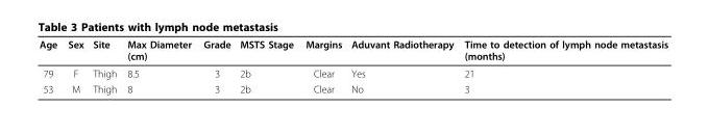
<table><thead><tr><td>Age</td><td>Sex</td><td>Site</td><td>Max Diameter (cm)</td><td>Grade</td><td>MSTS Stage</td><td>Margins</td><td>Aduvant Radiotherapy</td><td>Time to detection of lymph node metastasis (months)</td></tr></thead><tbody><tr><td>79</td><td>F</td><td>Thigh</td><td>8.5</td><td>3</td><td>2b</td><td>Clear</td><td>Yes</td><td>21</td></tr><tr><td>53</td><td>M</td><td>Thigh</td><td>8</td><td>3</td><td>2b</td><td>Clear</td><td>No</td><td>3</td></tr></tbody></table>